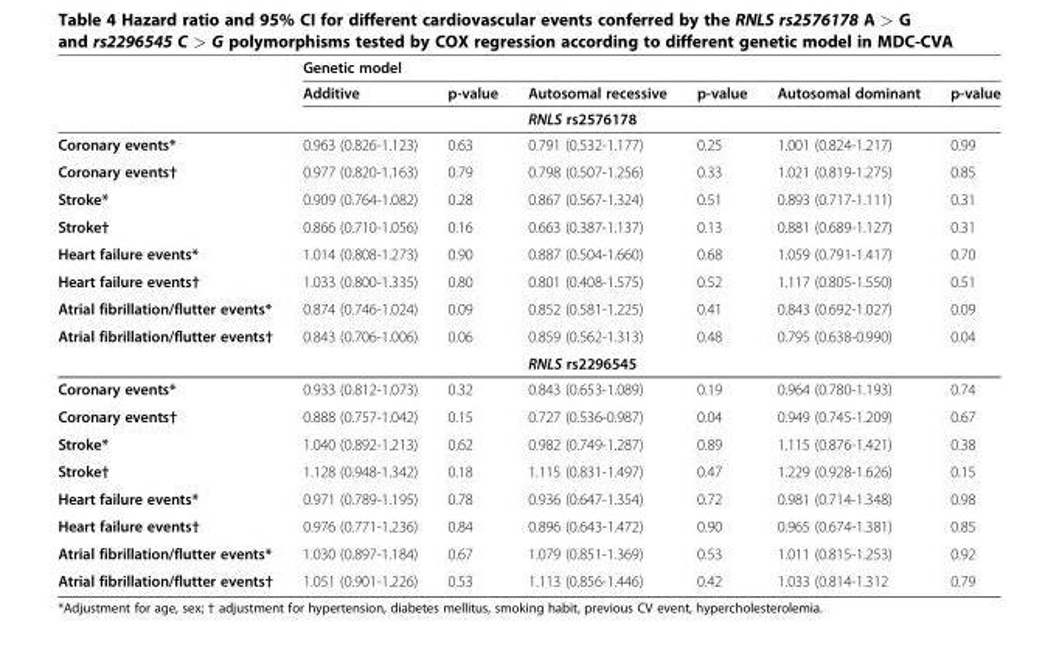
<table><thead><tr><td rowspan="3"></td><td colspan="6">Genetic model</td></tr><tr><td rowspan="2">Additive</td><td rowspan="2">p-value</td><td rowspan="2">Autosomal recessive RNLS rs2576178</td><td rowspan="2">p-value</td><td rowspan="2">Autosomal dominant</td><td rowspan="2">p-value</td></tr><tr></tr></thead><tbody><tr><td>Coronary events*</td><td>0.963 (0.826-1.123)</td><td>0.63</td><td>0.791 (0.532-1.177)</td><td>0.25</td><td>1.001 (0.824-1.217)</td><td>0.99</td></tr><tr><td>Coronary events†</td><td>0.977 (0.820-1.163)</td><td>0.79</td><td>0.798 (0.507-1.256)</td><td>0.33</td><td>1.021 (0.819-1.275)</td><td>0.85</td></tr><tr><td>Stroke*</td><td>0.909 (0.764-1.082)</td><td>0.28</td><td>0.867 (0.567-1.324)</td><td>0.51</td><td>0.893 (0.717-1.111)</td><td>0.31</td></tr><tr><td>Stroke†</td><td>0.866 (0.710-1.056)</td><td>0.16</td><td>0.663 (0.387-1.137)</td><td>0.13</td><td>0.881 (0.689-1.127)</td><td>0.31</td></tr><tr><td>Heart failure events*</td><td>1.014 (0.808-1.273)</td><td>0.90</td><td>0.887 (0.504-1.660)</td><td>0.68</td><td>1.059 (0.791-1.417)</td><td>0.70</td></tr><tr><td>Heart failure events†</td><td>1.033 (0.800-1.335)</td><td>0.80</td><td>0.801 (0.408-1.575)</td><td>0.52</td><td>1.117 (0.805-1.550)</td><td>0.51</td></tr><tr><td>Atrial fibrillation/flutter events*</td><td>0.874 (0.746-1.024)</td><td>0.09</td><td>0.852 (0.581-1.225)</td><td>0.41</td><td>0.843 (0.692-1.027)</td><td>0.09</td></tr><tr><td rowspan="2">Atrial fibrillation/flutter events†</td><td>0.843 (0.706-1.006)</td><td>0.06</td><td>0.859 (0.562-1.313)</td><td>0.48</td><td>0.795 (0.638-0.990)</td><td>0.04</td></tr><tr><td></td><td></td><td>RNLS rs2296545</td><td></td><td></td><td></td></tr><tr><td>Coronary events*</td><td>0.933 (0.812-1.073)</td><td>0.32</td><td>0.843 (0.653-1.089)</td><td>0.19</td><td>0.964 (0.780-1.193)</td><td>0.74</td></tr><tr><td>Coronary events†</td><td>0.888 (0.757-1.042)</td><td>0.15</td><td>0.727 (0.536-0.987)</td><td>0.04</td><td>0.949 (0.745-1.209)</td><td>0.67</td></tr><tr><td>Stroke*</td><td>1.040 (0.892-1.213)</td><td>0.62</td><td>0.982 (0.749-1.287)</td><td>0.89</td><td>1.115 (0.876-1.421)</td><td>0.38</td></tr><tr><td>Stroke†</td><td>1.128 (0.948-1.342)</td><td>0.18</td><td>1.115 (0.831-1.497)</td><td>0.47</td><td>1.229 (0.928-1.626)</td><td>0.15</td></tr><tr><td>Heart failure events*</td><td>0.971 (0.789-1.195)</td><td>0.78</td><td>0.936 (0.647-1.354)</td><td>0.72</td><td>0.981 (0.714-1.348)</td><td>0.98</td></tr><tr><td>Heart failure events†</td><td>0.976 (0.771-1.236)</td><td>0.84</td><td>0.896 (0.643-1.472)</td><td>0.90</td><td>0.965 (0.674-1.381)</td><td>0.85</td></tr><tr><td>Atrial fibrillation/flutter events*</td><td>1.030 (0.897-1.184)</td><td>0.67</td><td>1.079 (0.851-1.369)</td><td>0.53</td><td>1.011 (0.815-1.253)</td><td>0.92</td></tr><tr><td>Atrial fibrillation/flutter events†</td><td>1.051 (0.901-1.226)</td><td>0.53</td><td>1.113 (0.856-1.446)</td><td>0.42</td><td>1.033 (0.814-1.312</td><td>0.79</td></tr></tbody></table>